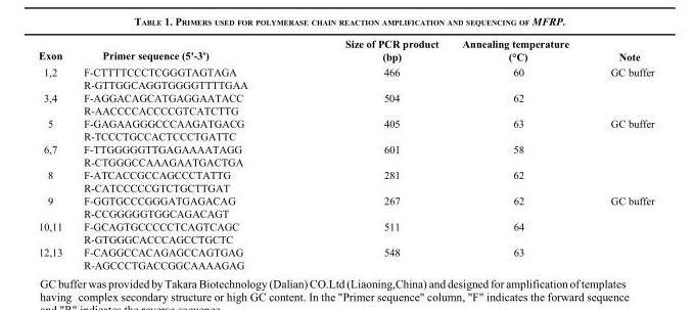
<table><thead><tr><td>Exon</td><td>Primer sequence (5&#x27;-3&#x27;)</td><td>Size of PCR product (bp)</td><td>(°C) Annealing temperature</td><td>Note</td></tr></thead><tbody><tr><td rowspan="2">1,2</td><td>F-CTTTTCCCTCGGGTAGTAGA</td><td>466</td><td>60</td><td>GC buffer</td></tr><tr><td>R-GTTGGCAGGTGGGGTTTTGAA</td><td></td><td></td><td></td></tr><tr><td rowspan="2">3,4</td><td>F-AGGACAGCATGAGGAATACC</td><td>504</td><td>62</td><td></td></tr><tr><td>R-AACCCCACCCCGTCATCTTG</td><td></td><td></td><td></td></tr><tr><td rowspan="2">5</td><td>F-GAGAAGGGCCCAAGATGACG</td><td>405</td><td>63</td><td>GC buffer</td></tr><tr><td>R-TCCCTGCCACTCCCTGATTC</td><td></td><td></td><td></td></tr><tr><td rowspan="2">6,7</td><td>F-TTGGGGGTTGAGAAAATAGG</td><td>601</td><td>58</td><td></td></tr><tr><td>R-CTGGGCCAAAGAATGACTGA</td><td></td><td></td><td></td></tr><tr><td rowspan="2">8</td><td>F-ATCACCGCCAGCCCTATTG</td><td>281</td><td>62</td><td></td></tr><tr><td>R-CATCCCCCGTCTGCTTGAT</td><td></td><td></td><td></td></tr><tr><td rowspan="2">9</td><td>F-GGTGCCCGGGATGAGACAG</td><td>267</td><td>62</td><td>GC buffer</td></tr><tr><td>R-CCGGGGGTGGCAGACAGT</td><td></td><td></td><td></td></tr><tr><td rowspan="2">10,11</td><td>F-GCAGTGCCCCCTCAGTCAGC</td><td>511</td><td>64</td><td></td></tr><tr><td>R-GTGGGCACCCAGCCTGCTC</td><td></td><td></td><td></td></tr><tr><td rowspan="2">12,13</td><td>F-CAGGCCACAGAGCCAGTGAG</td><td>548</td><td>63</td><td></td></tr><tr><td>R-AGCCCTGACCGGCAAAAGAG</td><td></td><td></td><td></td></tr></tbody></table>